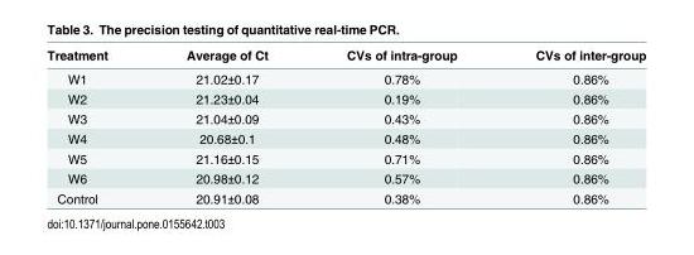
<table><thead><tr><td>Treatment</td><td>Average of Ct</td><td>CVs of intra-group</td><td>CVs of inter-group</td></tr></thead><tbody><tr><td>W1</td><td>21.02±0.17</td><td>0.78%</td><td>0.86%</td></tr><tr><td>W2</td><td>21.23±0.04</td><td>0.19%</td><td>0.86%</td></tr><tr><td>W3</td><td>21.04±0.09</td><td>0.43%</td><td>0.86%</td></tr><tr><td>W4</td><td>20.68±0.1</td><td>0.48%</td><td>0.86%</td></tr><tr><td>W5</td><td>21.16±0.15</td><td>0.71%</td><td>0.86%</td></tr><tr><td>W6</td><td>20.98±0.12</td><td>0.57%</td><td>0.86%</td></tr><tr><td>Control</td><td>20.91±0.08</td><td>0.38%</td><td>0.86%</td></tr></tbody></table>